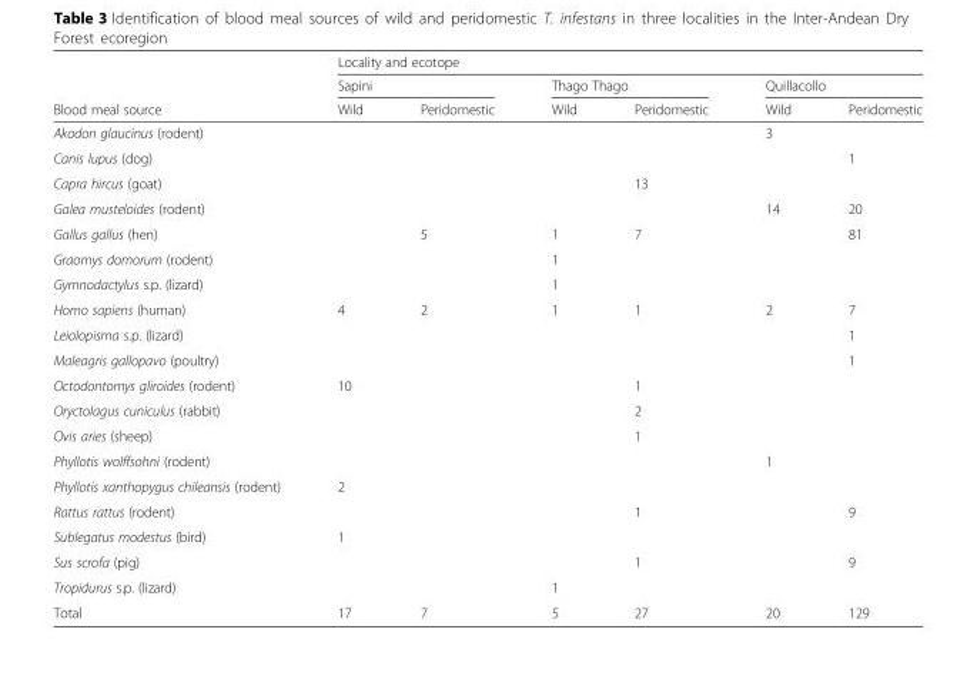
<table><thead><tr><td rowspan="3">Blood meal source</td><td colspan="6">Locality and ecotope</td></tr><tr><td colspan="2">Sapini</td><td colspan="2">Thago Thago</td><td colspan="2">Quillacollo</td></tr><tr><td>Wild</td><td>Peridomestic</td><td>Wild</td><td>Peridomestic</td><td>Wild</td><td>Peridomestic</td></tr></thead><tbody><tr><td>Akodon glaucinus (rodent)</td><td></td><td></td><td></td><td></td><td>3</td><td></td></tr><tr><td>Canis lupus (dog)</td><td></td><td></td><td></td><td></td><td></td><td>1</td></tr><tr><td>Capra hircus (goat)</td><td></td><td></td><td></td><td>13</td><td></td><td></td></tr><tr><td>Galea musteloides (rodent)</td><td></td><td></td><td></td><td></td><td>14</td><td>20</td></tr><tr><td>Gallus gallus (hen)</td><td></td><td>5</td><td>1</td><td>7</td><td></td><td>81</td></tr><tr><td>Graomys domorum (rodent)</td><td></td><td></td><td>1</td><td></td><td></td><td></td></tr><tr><td>Gymnodactylus s.p. (lizard)</td><td></td><td></td><td>1</td><td></td><td></td><td></td></tr><tr><td>Homo sapiens (human)</td><td>4</td><td>2</td><td>1</td><td>1</td><td>2</td><td>7</td></tr><tr><td>Leiolopisma s.p. (lizard)</td><td></td><td></td><td></td><td></td><td></td><td>1</td></tr><tr><td>Maleagris gallopavo (poultry)</td><td></td><td></td><td></td><td></td><td></td><td>1</td></tr><tr><td>Octodontomys gliroides (rodent)</td><td>10</td><td></td><td></td><td>1</td><td></td><td></td></tr><tr><td>Oryctolagus cuniculus (rabbit)</td><td></td><td></td><td></td><td>2</td><td></td><td></td></tr><tr><td>Ovis aries (sheep)</td><td></td><td></td><td></td><td>1</td><td></td><td></td></tr><tr><td>Phyllotis wolffsohni (rodent)</td><td></td><td></td><td></td><td></td><td>1</td><td></td></tr><tr><td>Phyllotis xanthopygus chileansis (rodent)</td><td>2</td><td></td><td></td><td></td><td></td><td></td></tr><tr><td>Rattus rattus (rodent)</td><td></td><td></td><td></td><td>1</td><td></td><td>9</td></tr><tr><td>Sublegatus modestus (bird)</td><td>1</td><td></td><td></td><td></td><td></td><td></td></tr><tr><td>Sus scrofa (pig)</td><td></td><td></td><td></td><td>1</td><td></td><td>9</td></tr><tr><td>Tropidurus s.p. (lizard)</td><td></td><td></td><td>1</td><td></td><td></td><td></td></tr><tr><td>Total</td><td>17</td><td>7</td><td>5</td><td>27</td><td>20</td><td>129</td></tr></tbody></table>